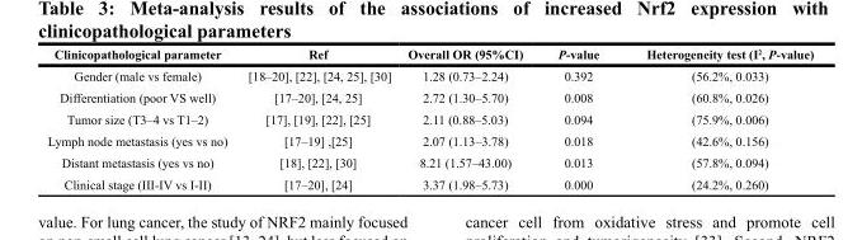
<table><thead><tr><td>Clinicopathological parameter</td><td>Ref</td><td>Overall OR (95%CI)</td><td>P-value</td><td>Heterogeneity test (I<sup>2</sup>, P-value)</td></tr></thead><tbody><tr><td>Gender (male vs female)</td><td>[18–20], [22], [24, 25], [30]</td><td>1.28 (0.73–2.24)</td><td>0.392</td><td>(56.2%, 0.033)</td></tr><tr><td>Differentiation (poor VS well)</td><td>[17–20], [24, 25]</td><td>2.72 (1.30–5.70)</td><td>0.008</td><td>(60.8%, 0.026)</td></tr><tr><td>Tumor size (T3–4 vs T1–2)</td><td>[17], [19], [22], [25]</td><td>2.11 (0.88–5.03)</td><td>0.094</td><td>(75.9%, 0.006)</td></tr><tr><td>Lymph node metastasis (yes vs no)</td><td>[17–19] ,[25]</td><td>2.07 (1.13–3.78)</td><td>0.018</td><td>(42.6%, 0.156)</td></tr><tr><td>Distant metastasis (yes vs no)</td><td>[18], [22], [30]</td><td>8.21 (1.57–43.00)</td><td>0.013</td><td>(57.8%, 0.094)</td></tr><tr><td>Clinical stage (III-IV vs I-II)</td><td>[17–20], [24]</td><td>3.37 (1.98–5.73)</td><td>0.000</td><td>(24.2%, 0.260)</td></tr></tbody></table>